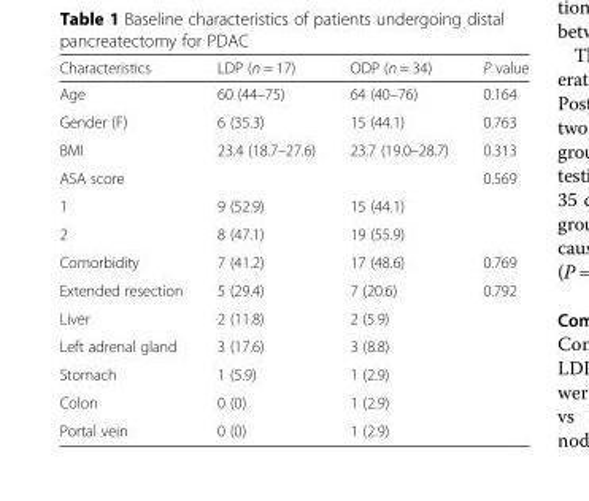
<table><thead><tr><td>Characteristics</td><td>LDP (n = 17)</td><td>ODP (n = 34)</td><td>P value</td></tr></thead><tbody><tr><td>Age</td><td>60 (44–75)</td><td>64 (40–76)</td><td>0.164</td></tr><tr><td>Gender (F)</td><td>6 (35.3)</td><td>15 (44.1)</td><td>0.763</td></tr><tr><td>BMI</td><td>23.4 (18.7–27.6)</td><td>23.7 (19.0–28.7)</td><td>0.313</td></tr><tr><td>ASA score</td><td></td><td></td><td>0.569</td></tr><tr><td>1</td><td>9 (52.9)</td><td>15 (44.1)</td><td></td></tr><tr><td>2</td><td>8 (47.1)</td><td>19 (55.9)</td><td></td></tr><tr><td>Comorbidity</td><td>7 (41.2)</td><td>17 (48.6)</td><td>0.769</td></tr><tr><td>Extended resection</td><td>5 (29.4)</td><td>7 (20.6)</td><td>0.792</td></tr><tr><td>Liver</td><td>2 (11.8)</td><td>2 (5.9)</td><td></td></tr><tr><td>Left adrenal gland</td><td>3 (17.6)</td><td>3 (8.8)</td><td></td></tr><tr><td>Stomach</td><td>1 (5.9)</td><td>1 (2.9)</td><td></td></tr><tr><td>Colon</td><td>0 (0)</td><td>1 (2.9)</td><td></td></tr><tr><td>Portal vein</td><td>0 (0)</td><td>1 (2.9)</td><td></td></tr></tbody></table>